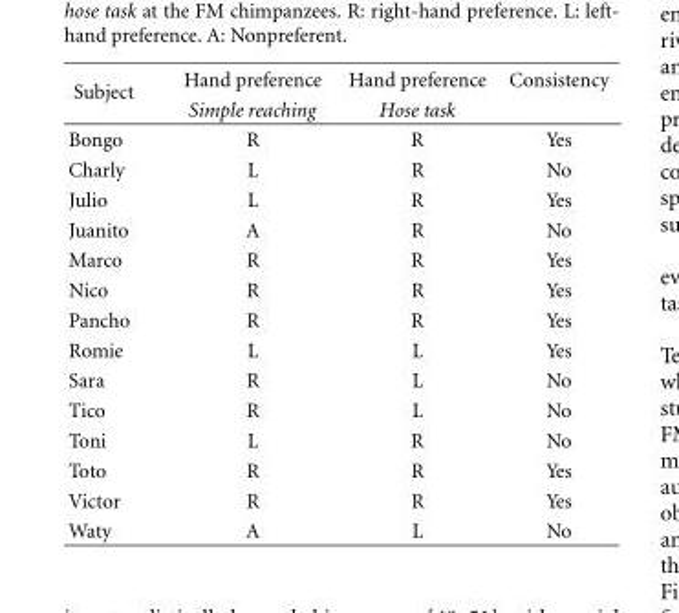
<table><thead><tr><td rowspan="2">Subject</td><td rowspan="2">Hand preference Simple reaching</td><td rowspan="2">Hand preference Hose task</td><td rowspan="2">Consistency</td></tr><tr></tr></thead><tbody><tr><td>Bongo</td><td>R</td><td>R</td><td>Yes</td></tr><tr><td>Charly</td><td>L</td><td>R</td><td>No</td></tr><tr><td>Julio</td><td>L</td><td>R</td><td>Yes</td></tr><tr><td>Juanito</td><td>A</td><td>R</td><td>No</td></tr><tr><td>Marco</td><td>R</td><td>R</td><td>Yes</td></tr><tr><td>Nico</td><td>R</td><td>R</td><td>Yes</td></tr><tr><td>Pancho</td><td>R</td><td>R</td><td>Yes</td></tr><tr><td>Romie</td><td>L</td><td>L</td><td>Yes</td></tr><tr><td>Sara</td><td>R</td><td>L</td><td>No</td></tr><tr><td>Tico</td><td>R</td><td>L</td><td>No</td></tr><tr><td>Toni</td><td>L</td><td>R</td><td>No</td></tr><tr><td>Toto</td><td>R</td><td>R</td><td>Yes</td></tr><tr><td>Victor</td><td>R</td><td>R</td><td>Yes</td></tr><tr><td>Waty</td><td>A</td><td>L</td><td>No</td></tr></tbody></table>